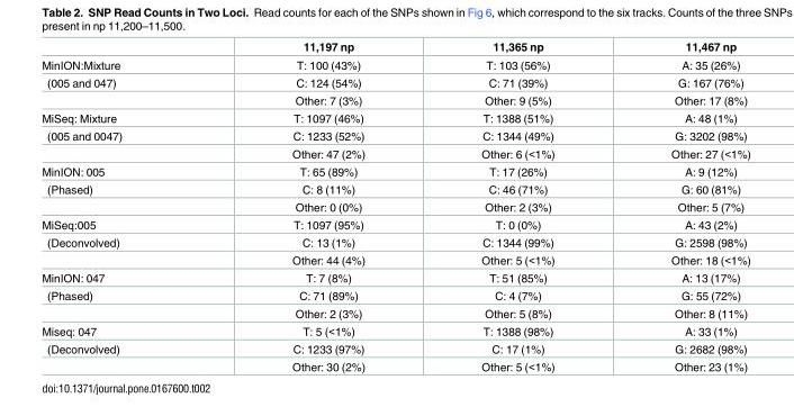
<table><thead><tr><td></td><td>11,197 np</td><td>11,365 np</td><td>11,467 np</td></tr></thead><tbody><tr><td>MinION:Mixture</td><td>T: 100 (43%)</td><td>T: 103 (56%)</td><td>A: 35 (26%)</td></tr><tr><td rowspan="2">(005 and 047)</td><td>C: 124 (54%)</td><td>C: 71 (39%)</td><td>G: 167 (76%)</td></tr><tr><td>Other: 7 (3%)</td><td>Other: 9 (5%)</td><td>Other: 17 (8%)</td></tr><tr><td>MiSeq: Mixture</td><td>T: 1097 (46%)</td><td>T: 1388 (51%)</td><td>A: 48 (1%)</td></tr><tr><td rowspan="2">(005 and 0047)</td><td>C: 1233 (52%)</td><td>C: 1344 (49%)</td><td>G: 3202 (98%)</td></tr><tr><td>Other: 47 (2%)</td><td>Other: 6 (&lt;1%)</td><td>Other: 27 (&lt;1%)</td></tr><tr><td>MinION: 005</td><td>T: 65 (89%)</td><td>T: 17 (26%)</td><td>A: 9 (12%)</td></tr><tr><td rowspan="2">(Phased)</td><td>C: 8 (11%)</td><td>C: 46 (71%)</td><td>G: 60 (81%)</td></tr><tr><td>Other: 0 (0%)</td><td>Other: 2 (3%)</td><td>Other: 5 (7%)</td></tr><tr><td>MiSeq:005</td><td>T: 1097 (95%)</td><td>T: 0 (0%)</td><td>A: 43 (2%)</td></tr><tr><td rowspan="2">(Deconvolved)</td><td>C: 13 (1%)</td><td>C: 1344 (99%)</td><td>G: 2598 (98%)</td></tr><tr><td>Other: 44 (4%)</td><td>Other: 5 (&lt;1%)</td><td>Other: 18 (&lt;1%)</td></tr><tr><td>MinION: 047</td><td>T: 7 (8%)</td><td>T: 51 (85%)</td><td>A: 13 (17%)</td></tr><tr><td rowspan="2">(Phased)</td><td>C: 71 (89%)</td><td>C: 4 (7%)</td><td>G: 55 (72%)</td></tr><tr><td>Other: 2 (3%)</td><td>Other: 5 (8%)</td><td>Other: 8 (11%)</td></tr><tr><td>Miseq: 047</td><td>T: 5 (&lt;1%)</td><td>T: 1388 (98%)</td><td>A: 33 (1%)</td></tr><tr><td rowspan="2">(Deconvolved)</td><td>C: 1233 (97%)</td><td>C: 17 (1%)</td><td>G: 2682 (98%)</td></tr><tr><td>Other: 30 (2%)</td><td>Other: 5 (&lt;1%)</td><td>Other: 23 (1%)</td></tr></tbody></table>